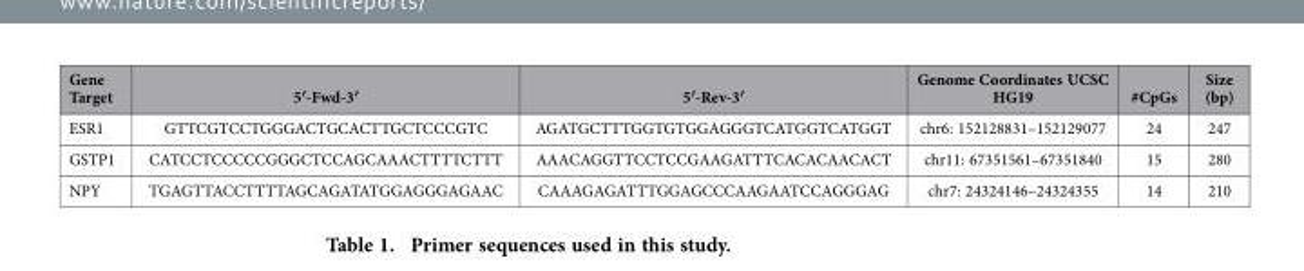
<table><thead><tr><td>Gene Target</td><td>5′-Fwd-3′</td><td>5′-Rev-3′</td><td>Genome Coordinates UCSC HG19</td><td>#CpGs</td><td>Size (bp)</td></tr></thead><tbody><tr><td>ESR1</td><td>GTTCGTCCTGGGACTGCACTTGCTCCCGTC</td><td>AGATGCTTTGGTGTGGAGGGTCATGGTCATGGT</td><td>chr6: 152128831–152129077</td><td>24</td><td>247</td></tr><tr><td>GSTP1</td><td>CATCCTCCCCCGGGCTCCAGCAAACTTTTCTTT</td><td>AAACAGGTTCCTCCGAAGATTTCACACAACACT</td><td>chr11: 67351561–67351840</td><td>15</td><td>280</td></tr><tr><td>NPY</td><td>TGAGTTACCTTTTAGCAGATATGGAGGGAGAAC</td><td>CAAAGAGATTTGGAGCCCAAGAATCCAGGGAG</td><td>chr7: 24324146–24324355</td><td>14</td><td>210</td></tr></tbody></table>